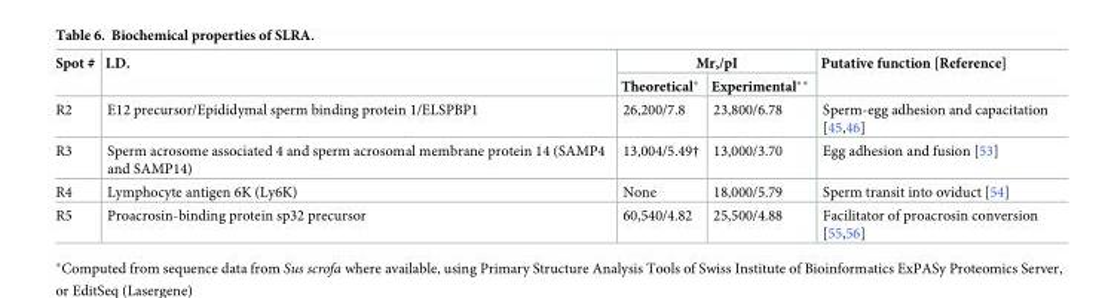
<table><thead><tr><td rowspan="2">Spot #</td><td rowspan="2">I.D.</td><td colspan="2">Mr,/pI</td><td rowspan="2">Putative function [Reference]</td></tr><tr><td>Theoretical*</td><td>Experimental**</td></tr></thead><tbody><tr><td>R2</td><td>E12 precursor/Epididymal sperm binding protein 1/ELSPBP1</td><td>26,200/7.8</td><td>23,800/6.78</td><td>Sperm-egg adhesion and capacitation [45,46]</td></tr><tr><td>R3</td><td>Sperm acrosome associated 4 and sperm acrosomal membrane protein 14 (SAMP4 and SAMP14)</td><td>13,004/5.49†</td><td>13,000/3.70</td><td>Egg adhesion and fusion [53]</td></tr><tr><td>R4</td><td>Lymphocyte antigen 6K (Ly6K)</td><td>None</td><td>18,000/5.79</td><td>Sperm transit into oviduct [54]</td></tr><tr><td>R5</td><td>Proacrosin-binding protein sp32 precursor</td><td>60,540/4.82</td><td>25,500/4.88</td><td>Facilitator of proacrosin conversion [55,56]</td></tr></tbody></table>